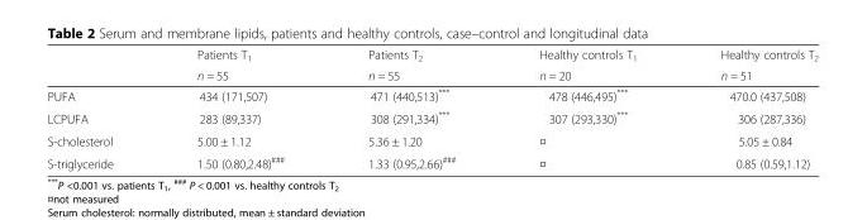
<table><thead><tr><td rowspan="2"></td><td rowspan="2">Patients T<sub>1</sub> n = 55</td><td rowspan="2">Patients T<sub>2</sub> n = 55</td><td rowspan="2">Healthy controls T<sub>1</sub> n = 20</td><td rowspan="2">Healthy controls T<sub>2</sub> n = 51</td></tr><tr></tr></thead><tbody><tr><td>PUFA</td><td>434 (171,507)</td><td>471 (440,513)***</td><td>478 (446,495)***</td><td>470.0 (437,508)</td></tr><tr><td>LCPUFA</td><td>283 (89,337)</td><td>308 (291,334)***</td><td>307 (293,330)***</td><td>306 (287,336)</td></tr><tr><td>S-cholesterol</td><td>5.00 ± 1.12</td><td>5.36 ± 1.20</td><td>¤</td><td>5.05 ± 0.84</td></tr><tr><td>S-triglyceride</td><td>1.50 (0.80,2.48)<sup>###</sup></td><td>1.33 (0.95,2.66)<sup>###</sup></td><td>¤</td><td>0.85 (0.59,1.12)</td></tr></tbody></table>